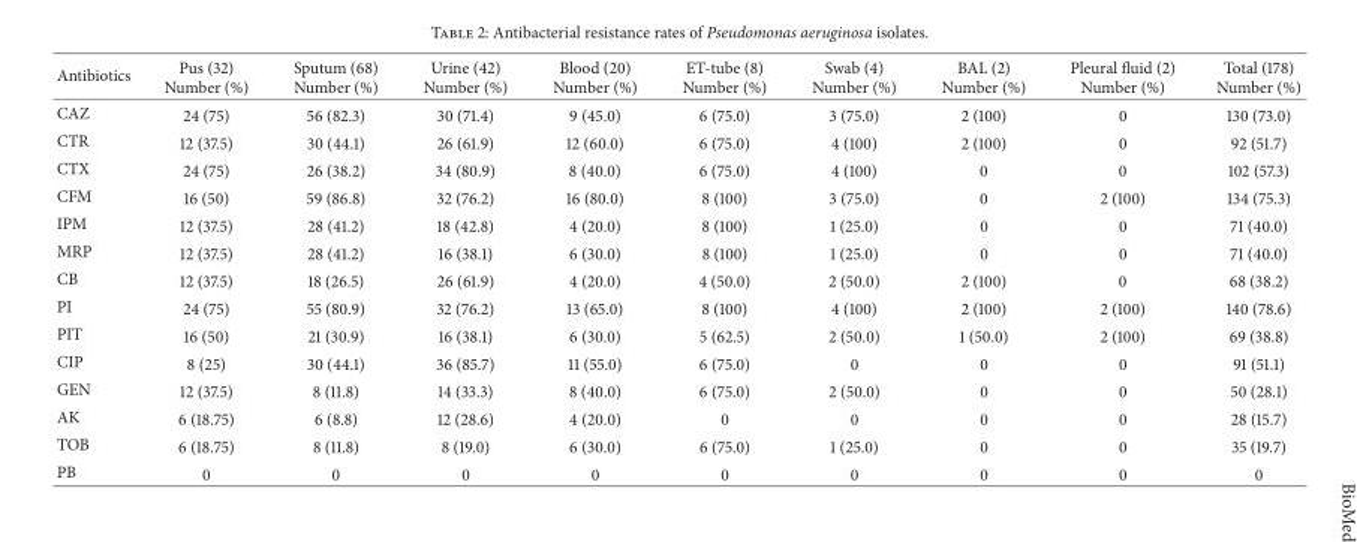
<table><thead><tr><td>Antibiotics</td><td>Pus (32) Number (%)</td><td>Sputum (68) Number (%)</td><td>Urine (42) Number (%)</td><td>Blood (20) Number (%)</td><td>ET-tube (8) Number (%)</td><td>Swab (4) Number (%)</td><td>BAL (2) Number (%)</td><td>Pleural fluid (2) Number (%)</td><td>Total (178) Number (%)</td></tr></thead><tbody><tr><td>CAZ</td><td>24 (75)</td><td>56 (82.3)</td><td>30 (71.4)</td><td>9 (45.0)</td><td>6 (75.0)</td><td>3 (75.0)</td><td>2 (100)</td><td>0</td><td>130 (73.0)</td></tr><tr><td>CTR</td><td>12 (37.5)</td><td>30 (44.1)</td><td>26 (61.9)</td><td>12 (60.0)</td><td>6 (75.0)</td><td>4 (100)</td><td>2 (100)</td><td>0</td><td>92 (51.7)</td></tr><tr><td>CTX</td><td>24 (75)</td><td>26 (38.2)</td><td>34 (80.9)</td><td>8 (40.0)</td><td>6 (75.0)</td><td>4 (100)</td><td>0</td><td>0</td><td>102 (57.3)</td></tr><tr><td>CFM</td><td>16 (50)</td><td>59 (86.8)</td><td>32 (76.2)</td><td>16 (80.0)</td><td>8 (100)</td><td>3 (75.0)</td><td>0</td><td>2 (100)</td><td>134 (75.3)</td></tr><tr><td>IPM</td><td>12 (37.5)</td><td>28 (41.2)</td><td>18 (42.8)</td><td>4 (20.0)</td><td>8 (100)</td><td>1 (25.0)</td><td>0</td><td>0</td><td>71 (40.0)</td></tr><tr><td>MRP</td><td>12 (37.5)</td><td>28 (41.2)</td><td>16 (38.1)</td><td>6 (30.0)</td><td>8 (100)</td><td>1 (25.0)</td><td>0</td><td>0</td><td>71 (40.0)</td></tr><tr><td>CB</td><td>12 (37.5)</td><td>18 (26.5)</td><td>26 (61.9)</td><td>4 (20.0)</td><td>4 (50.0)</td><td>2 (50.0)</td><td>2 (100)</td><td>0</td><td>68 (38.2)</td></tr><tr><td>PI</td><td>24 (75)</td><td>55 (80.9)</td><td>32 (76.2)</td><td>13 (65.0)</td><td>8 (100)</td><td>4 (100)</td><td>2 (100)</td><td>2 (100)</td><td>140 (78.6)</td></tr><tr><td>PIT</td><td>16 (50)</td><td>21 (30.9)</td><td>16 (38.1)</td><td>6 (30.0)</td><td>5 (62.5)</td><td>2 (50.0)</td><td>1 (50.0)</td><td>2 (100)</td><td>69 (38.8)</td></tr><tr><td>CIP</td><td>8 (25)</td><td>30 (44.1)</td><td>36 (85.7)</td><td>11 (55.0)</td><td>6 (75.0)</td><td>0</td><td>0</td><td>0</td><td>91 (51.1)</td></tr><tr><td>GEN</td><td>12 (37.5)</td><td>8 (11.8)</td><td>14 (33.3)</td><td>8 (40.0)</td><td>6 (75.0)</td><td>2 (50.0)</td><td>0</td><td>0</td><td>50 (28.1)</td></tr><tr><td>AK</td><td>6 (18.75)</td><td>6 (8.8)</td><td>12 (28.6)</td><td>4 (20.0)</td><td>0</td><td>0</td><td>0</td><td>0</td><td>28 (15.7)</td></tr><tr><td>TOB</td><td>6 (18.75)</td><td>8 (11.8)</td><td>8 (19.0)</td><td>6 (30.0)</td><td>6 (75.0)</td><td>1 (25.0)</td><td>0</td><td>0</td><td>35 (19.7)</td></tr><tr><td>PB</td><td>0</td><td>0</td><td>0</td><td>0</td><td>0</td><td>0</td><td>0</td><td>0</td><td>0</td></tr></tbody></table>